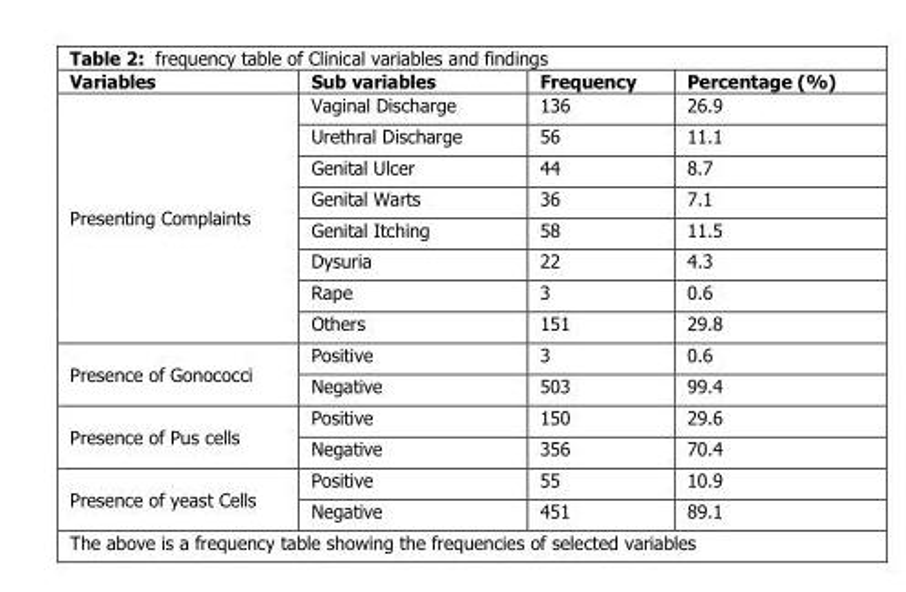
<table><thead><tr><td>Variables</td><td>Sub variables</td><td>Frequency</td><td>Percentage (%)</td></tr></thead><tbody><tr><td rowspan="8">Presenting Complaints</td><td>Vaginal Discharge</td><td>136</td><td>26.9</td></tr><tr><td>Urethral Discharge</td><td>56</td><td>11.1</td></tr><tr><td>Genital Ulcer</td><td>44</td><td>8.7</td></tr><tr><td>Genital Warts</td><td>36</td><td>7.1</td></tr><tr><td>Genital Itching</td><td>58</td><td>11.5</td></tr><tr><td>Dysuria</td><td>22</td><td>4.3</td></tr><tr><td>Rape</td><td>3</td><td>0.6</td></tr><tr><td>Others</td><td>151</td><td>29.8</td></tr><tr><td rowspan="2">Presence of Gonococci</td><td>Positive</td><td>3</td><td>0.6</td></tr><tr><td>Negative</td><td>503</td><td>99.4</td></tr><tr><td rowspan="2">Presence of Pus cells</td><td>Positive</td><td>150</td><td>29.6</td></tr><tr><td>Negative</td><td>356</td><td>70.4</td></tr><tr><td rowspan="2">Presence of yeast Cells</td><td>Positive</td><td>55</td><td>10.9</td></tr><tr><td>Negative</td><td>451</td><td>89.1</td></tr></tbody></table>